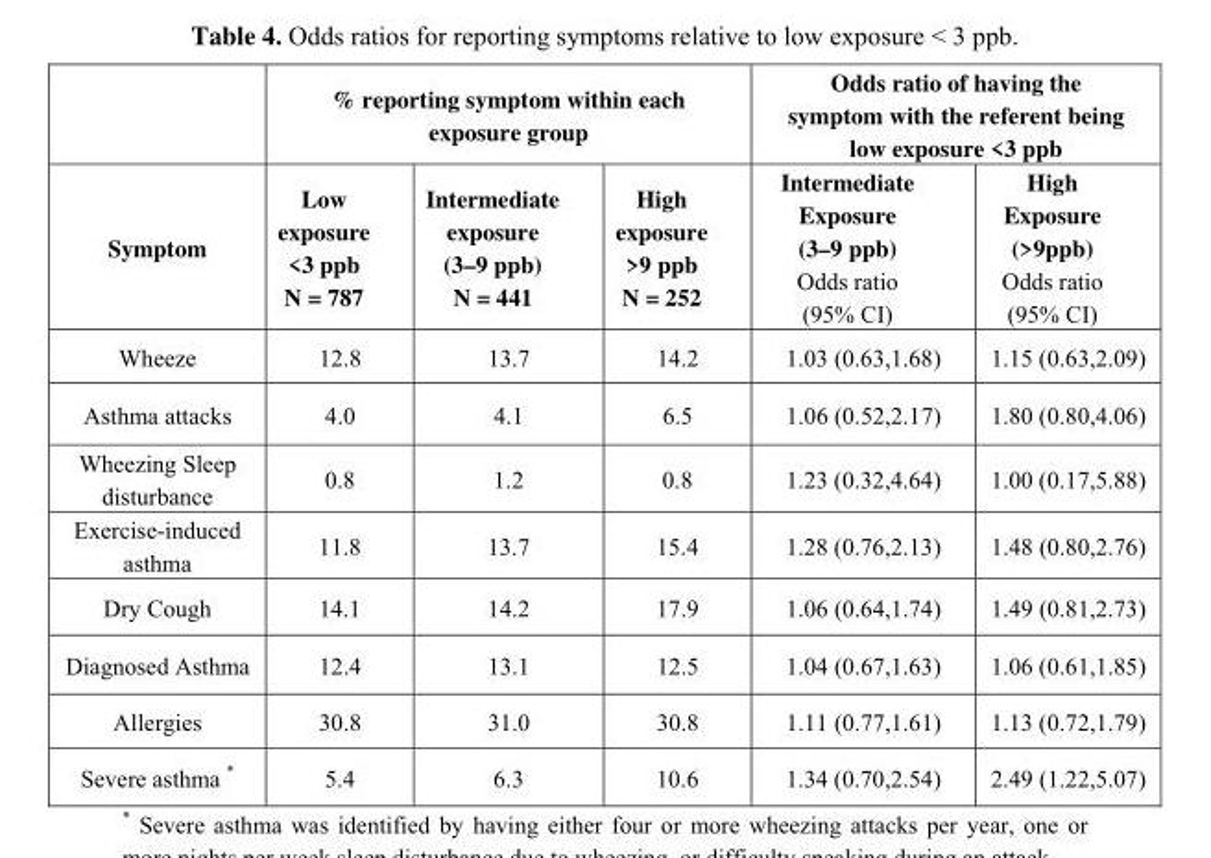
<table><thead><tr><td rowspan="2">Symptom</td><td colspan="3">% reporting symptom within each exposure group</td><td colspan="2">Odds ratio of having the symptom with the referent being low exposure &lt;3 ppb</td></tr><tr><td>Low exposure &lt;3 ppb N = 787</td><td>Intermediate exposure (3–9 ppb) N = 441</td><td>High exposure &gt;9 ppb N = 252</td><td>Intermediate Exposure (3–9 ppb) Odds ratio (95% CI)</td><td>High Exposure (&gt;9ppb) Odds ratio (95% CI)</td></tr></thead><tbody><tr><td>Wheeze</td><td>12.8</td><td>13.7</td><td>14.2</td><td>1.03 (0.63,1.68)</td><td>1.15 (0.63,2.09)</td></tr><tr><td>Asthma attacks</td><td>4.0</td><td>4.1</td><td>6.5</td><td>1.06 (0.52,2.17)</td><td>1.80 (0.80,4.06)</td></tr><tr><td>Wheezing Sleep disturbance</td><td>0.8</td><td>1.2</td><td>0.8</td><td>1.23 (0.32,4.64)</td><td>1.00 (0.17,5.88)</td></tr><tr><td>Exercise-induced asthma</td><td>11.8</td><td>13.7</td><td>15.4</td><td>1.28 (0.76,2.13)</td><td>1.48 (0.80,2.76)</td></tr><tr><td>Dry Cough</td><td>14.1</td><td>14.2</td><td>17.9</td><td>1.06 (0.64,1.74)</td><td>1.49 (0.81,2.73)</td></tr><tr><td>Diagnosed Asthma</td><td>12.4</td><td>13.1</td><td>12.5</td><td>1.04 (0.67,1.63)</td><td>1.06 (0.61,1.85)</td></tr><tr><td>Allergies</td><td>30.8</td><td>31.0</td><td>30.8</td><td>1.11 (0.77,1.61)</td><td>1.13 (0.72,1.79)</td></tr><tr><td>Severe asthma *</td><td>5.4</td><td>6.3</td><td>10.6</td><td>1.34 (0.70,2.54)</td><td>2.49 (1.22,5.07)</td></tr></tbody></table>